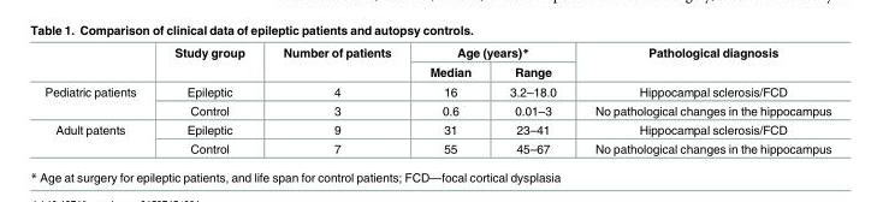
<table><thead><tr><td rowspan="2"></td><td rowspan="2">Study group</td><td rowspan="2">Number of patients</td><td colspan="2">Age (years)*</td><td rowspan="2">Pathological diagnosis</td></tr><tr><td>Median</td><td>Range</td></tr></thead><tbody><tr><td rowspan="2">Pediatric patients</td><td>Epileptic</td><td>4</td><td>16</td><td>3.2–18.0</td><td>Hippocampal sclerosis/FCD</td></tr><tr><td>Control</td><td>3</td><td>0.6</td><td>0.01–3</td><td>No pathological changes in the hippocampus</td></tr><tr><td rowspan="2">Adult patents</td><td>Epileptic</td><td>9</td><td>31</td><td>23–41</td><td>Hippocampal sclerosis/FCD</td></tr><tr><td>Control</td><td>7</td><td>55</td><td>45–67</td><td>No pathological changes in the hippocampus</td></tr></tbody></table>